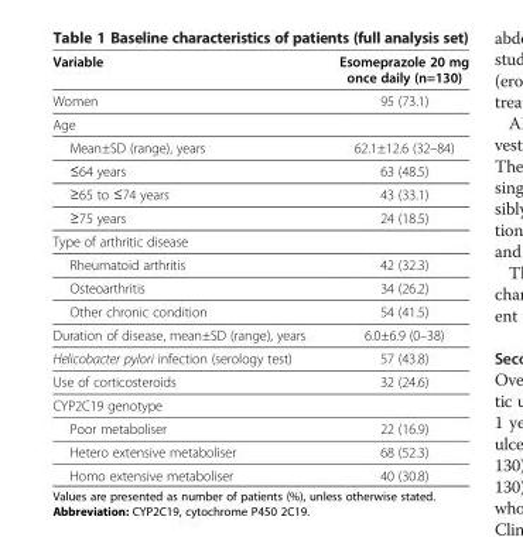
<table><thead><tr><td>Variable</td><td>Esomeprazole 20 mg once daily (n=130)</td></tr></thead><tbody><tr><td>Women</td><td>95 (73.1)</td></tr><tr><td colspan="2">Age</td></tr><tr><td>Mean±SD (range), years</td><td>62.1±12.6 (32–84)</td></tr><tr><td>≤64 years</td><td>63 (48.5)</td></tr><tr><td>≥65 to ≤74 years</td><td>43 (33.1)</td></tr><tr><td>≥75 years</td><td>24 (18.5)</td></tr><tr><td colspan="2">Type of arthritic disease</td></tr><tr><td>Rheumatoid arthritis</td><td>42 (32.3)</td></tr><tr><td>Osteoarthritis</td><td>34 (26.2)</td></tr><tr><td>Other chronic condition</td><td>54 (41.5)</td></tr><tr><td>Duration of disease, mean±SD (range), years</td><td>6.0±6.9 (0–38)</td></tr><tr><td>Helicobacter pylori infection (serology test)</td><td>57 (43.8)</td></tr><tr><td>Use of corticosteroids</td><td>32 (24.6)</td></tr><tr><td colspan="2">CYP2C19 genotype</td></tr><tr><td>Poor metaboliser</td><td>22 (16.9)</td></tr><tr><td>Hetero extensive metaboliser</td><td>68 (52.3)</td></tr><tr><td>Homo extensive metaboliser</td><td>40 (30.8)</td></tr></tbody></table>